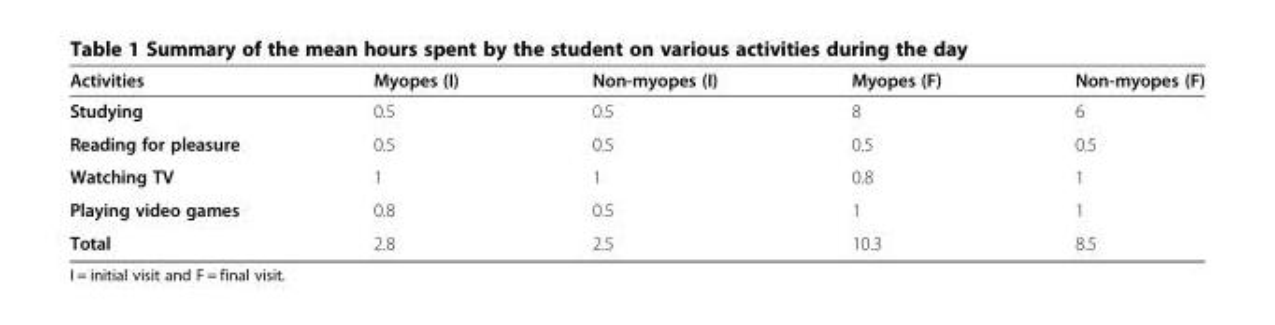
<table><thead><tr><td>Activities</td><td>Myopes (I)</td><td>Non-myopes (I)</td><td>Myopes (F)</td><td>Non-myopes (F)</td></tr></thead><tbody><tr><td>Studying</td><td>0.5</td><td>0.5</td><td>8</td><td>6</td></tr><tr><td>Reading for pleasure</td><td>0.5</td><td>0.5</td><td>0.5</td><td>0.5</td></tr><tr><td>Watching TV</td><td>1</td><td>1</td><td>0.8</td><td>1</td></tr><tr><td>Playing video games</td><td>0.8</td><td>0.5</td><td>1</td><td>1</td></tr><tr><td>Total</td><td>2.8</td><td>2.5</td><td>10.3</td><td>8.5</td></tr></tbody></table>